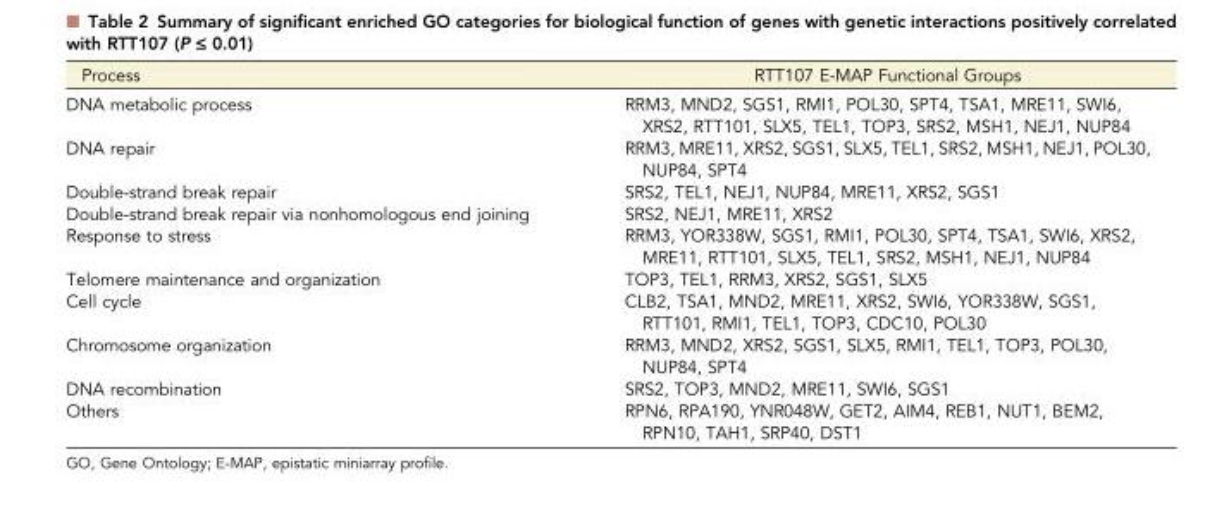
<table><thead><tr><td>Process</td><td>RTT107 E-MAP Functional Groups</td></tr></thead><tbody><tr><td>DNA metabolic process</td><td>RRM3, MND2, SGS1, RMI1, POL30, SPT4, TSA1, MRE11, SWI6, XRS2, RTT101, SLX5, TEL1, TOP3, SRS2, MSH1, NEJ1, NUP84</td></tr><tr><td>DNA repair</td><td>RRM3, MRE11, XRS2, SGS1, SLX5, TEL1, SRS2, MSH1, NEJ1, POL30, NUP84, SPT4</td></tr><tr><td>Double-strand break repair</td><td>SRS2, TEL1, NEJ1, NUP84, MRE11, XRS2, SGS1</td></tr><tr><td>Double-strand break repair via nonhomologous end joining</td><td>SRS2, NEJ1, MRE11, XRS2</td></tr><tr><td>Response to stress</td><td>RRM3, YOR338W, SGS1, RMI1, POL30, SPT4, TSA1, SWI6, XRS2, MRE11, RTT101, SLX5, TEL1, SRS2, MSH1, NEJ1, NUP84</td></tr><tr><td>Telomere maintenance and organization</td><td>TOP3, TEL1, RRM3, XRS2, SGS1, SLX5</td></tr><tr><td>Cell cycle</td><td>CLB2, TSA1, MND2, MRE11, XRS2, SWI6, YOR338W, SGS1, RTT101, RMI1, TEL1, TOP3, CDC10, POL30</td></tr><tr><td>Chromosome organization</td><td>RRM3, MND2, XRS2, SGS1, SLX5, RMI1, TEL1, TOP3, POL30, NUP84, SPT4</td></tr><tr><td>DNA recombination</td><td>SRS2, TOP3, MND2, MRE11, SWI6, SGS1</td></tr><tr><td>Others</td><td>RPN6, RPA190, YNR048W, GET2, AIM4, REB1, NUT1, BEM2, RPN10, TAH1, SRP40, DST1</td></tr></tbody></table>